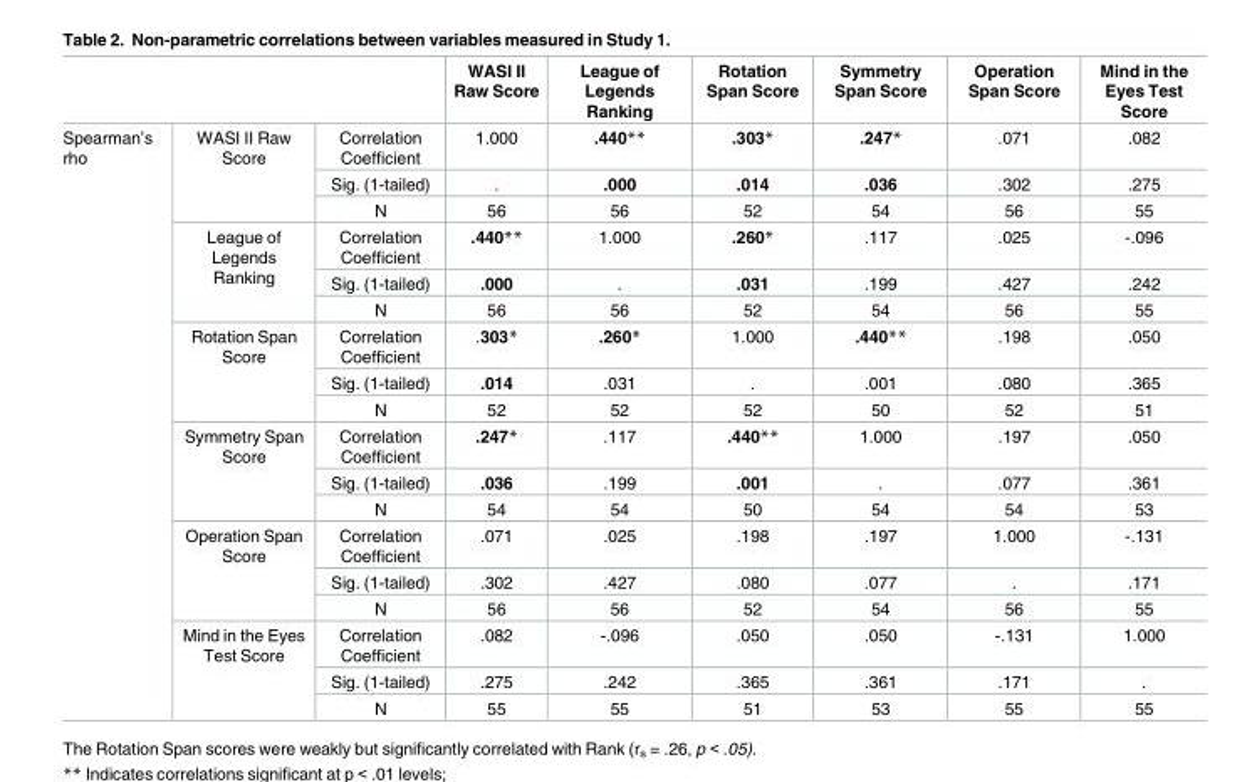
<table><thead><tr><td></td><td></td><td></td><td>WASI II Raw Score</td><td>League of Legends Ranking</td><td>Rotation Span Score</td><td>Symmetry Span Score</td><td>Operation Span Score</td><td>Mind in the Eyes Test Score</td></tr></thead><tbody><tr><td rowspan="18">Spearman’s rho</td><td rowspan="3">WASI II Raw Score</td><td>Correlation Coefficient</td><td>1.000</td><td>.440**</td><td>.303*</td><td>.247*</td><td>.071</td><td>.082</td></tr><tr><td>Sig. (1-tailed)</td><td>.</td><td>.000</td><td>.014</td><td>.036</td><td>.302</td><td>.275</td></tr><tr><td>N</td><td>56</td><td>56</td><td>52</td><td>54</td><td>56</td><td>55</td></tr><tr><td rowspan="3">League of Legends Ranking</td><td>Correlation Coefficient</td><td>.440**</td><td>1.000</td><td>.260*</td><td>.117</td><td>.025</td><td>-.096</td></tr><tr><td>Sig. (1-tailed)</td><td>.000</td><td>.</td><td>.031</td><td>.199</td><td>.427</td><td>.242</td></tr><tr><td>N</td><td>56</td><td>56</td><td>52</td><td>54</td><td>56</td><td>55</td></tr><tr><td rowspan="3">Rotation Span Score</td><td>Correlation Coefficient</td><td>.303*</td><td>.260*</td><td>1.000</td><td>.440**</td><td>.198</td><td>.050</td></tr><tr><td>Sig. (1-tailed)</td><td>.014</td><td>.031</td><td>.</td><td>.001</td><td>.080</td><td>.365</td></tr><tr><td>N</td><td>52</td><td>52</td><td>52</td><td>50</td><td>52</td><td>51</td></tr><tr><td rowspan="3">Symmetry Span Score</td><td>Correlation Coefficient</td><td>.247*</td><td>.117</td><td>.440**</td><td>1.000</td><td>.197</td><td>.050</td></tr><tr><td>Sig. (1-tailed)</td><td>.036</td><td>.199</td><td>.001</td><td>.</td><td>.077</td><td>.361</td></tr><tr><td>N</td><td>54</td><td>54</td><td>50</td><td>54</td><td>54</td><td>53</td></tr><tr><td rowspan="3">Operation Span Score</td><td>Correlation Coefficient</td><td>.071</td><td>.025</td><td>.198</td><td>.197</td><td>1.000</td><td>-.131</td></tr><tr><td>Sig. (1-tailed)</td><td>.302</td><td>.427</td><td>.080</td><td>.077</td><td>.</td><td>.171</td></tr><tr><td>N</td><td>56</td><td>56</td><td>52</td><td>54</td><td>56</td><td>55</td></tr><tr><td rowspan="3">Mind in the Eyes Test Score</td><td>Correlation Coefficient</td><td>.082</td><td>-.096</td><td>.050</td><td>.050</td><td>-.131</td><td>1.000</td></tr><tr><td>Sig. (1-tailed)</td><td>.275</td><td>.242</td><td>.365</td><td>.361</td><td>.171</td><td>.</td></tr><tr><td>N</td><td>55</td><td>55</td><td>51</td><td>53</td><td>55</td><td>55</td></tr></tbody></table>